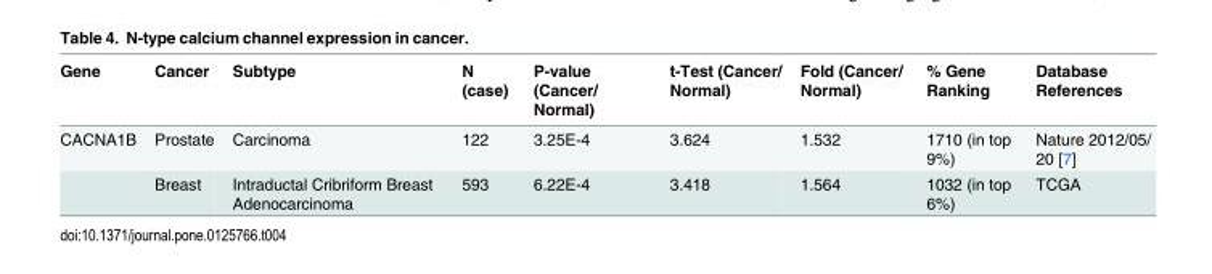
<table><thead><tr><td>Gene</td><td>Cancer</td><td>Subtype</td><td>N (case)</td><td>P-value (Cancer/ Normal)</td><td>t-Test (Cancer/ Normal)</td><td>Fold (Cancer/ Normal)</td><td>% Gene Ranking</td><td>Database References</td></tr></thead><tbody><tr><td rowspan="2">CACNA1B</td><td>Prostate</td><td>Carcinoma</td><td>122</td><td>3.25E-4</td><td>3.624</td><td>1.532</td><td>1710 (in top 9%)</td><td>Nature 2012/05/ 20 [7]</td></tr><tr><td>Breast</td><td>Intraductal Cribriform Breast Adenocarcinoma</td><td>593</td><td>6.22E-4</td><td>3.418</td><td>1.564</td><td>1032 (in top 6%)</td><td>TCGA</td></tr></tbody></table>